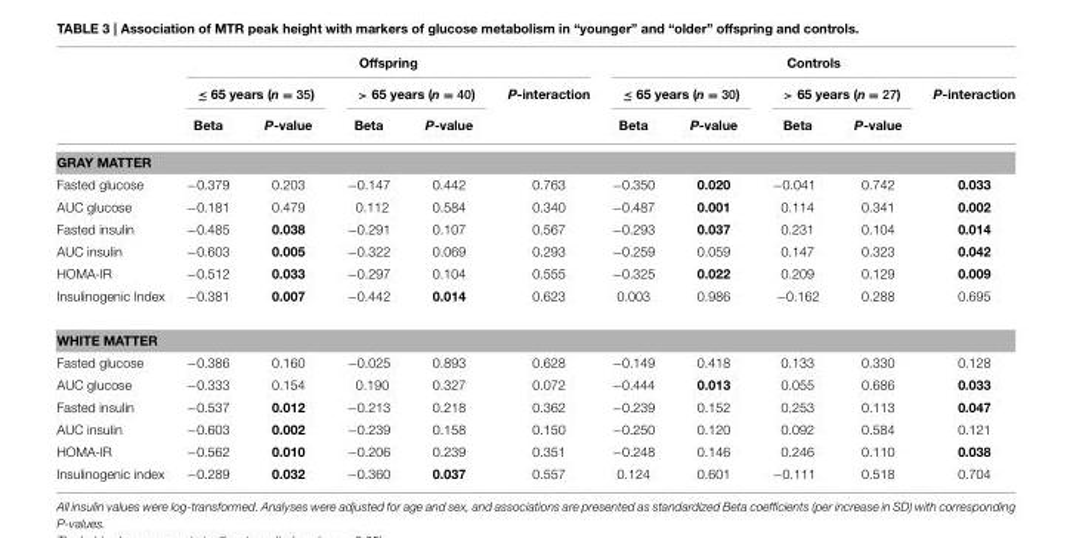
<table><thead><tr><td rowspan="3"></td><td colspan="5">Offspring</td><td colspan="5">Controls</td></tr><tr><td colspan="2">≤ 65 years (n = 35)</td><td colspan="2">&gt; 65 years (n = 40)</td><td rowspan="2">P-interaction</td><td colspan="2">≤ 65 years (n = 30)</td><td colspan="2">&gt; 65 years (n = 27)</td><td rowspan="2">P-interaction</td></tr><tr><td>Beta</td><td>P-value</td><td>Beta</td><td>P-value</td><td>Beta</td><td>P-value</td><td>Beta</td><td>P-value</td></tr></thead><tbody><tr><td colspan="11">GRAY MATTER</td></tr><tr><td>Fasted glucose</td><td>−0.379</td><td>0.203</td><td>−0.147</td><td>0.442</td><td>0.763</td><td>−0.350</td><td>0.020</td><td>−0.041</td><td>0.742</td><td>0.033</td></tr><tr><td>AUC glucose</td><td>−0.181</td><td>0.479</td><td>0.112</td><td>0.584</td><td>0.340</td><td>−0.487</td><td>0.001</td><td>0.114</td><td>0.341</td><td>0.002</td></tr><tr><td>Fasted insulin</td><td>−0.485</td><td>0.038</td><td>−0.291</td><td>0.107</td><td>0.567</td><td>−0.293</td><td>0.037</td><td>0.231</td><td>0.104</td><td>0.014</td></tr><tr><td>AUC insulin</td><td>−0.603</td><td>0.005</td><td>−0.322</td><td>0.069</td><td>0.293</td><td>−0.259</td><td>0.059</td><td>0.147</td><td>0.323</td><td>0.042</td></tr><tr><td>HOMA-IR</td><td>−0.512</td><td>0.033</td><td>−0.297</td><td>0.104</td><td>0.555</td><td>−0.325</td><td>0.022</td><td>0.209</td><td>0.129</td><td>0.009</td></tr><tr><td>Insulinogenic Index</td><td>−0.381</td><td>0.007</td><td>−0.442</td><td>0.014</td><td>0.623</td><td>0.003</td><td>0.986</td><td>−0.162</td><td>0.288</td><td>0.695</td></tr><tr><td colspan="11">WHITE MATTER</td></tr><tr><td>Fasted glucose</td><td>−0.386</td><td>0.160</td><td>−0.025</td><td>0.893</td><td>0.628</td><td>−0.149</td><td>0.418</td><td>0.133</td><td>0.330</td><td>0.128</td></tr><tr><td>AUC glucose</td><td>−0.333</td><td>0.154</td><td>0.190</td><td>0.327</td><td>0.072</td><td>−0.444</td><td>0.013</td><td>0.055</td><td>0.686</td><td>0.033</td></tr><tr><td>Fasted insulin</td><td>−0.537</td><td>0.012</td><td>−0.213</td><td>0.218</td><td>0.362</td><td>−0.239</td><td>0.152</td><td>0.253</td><td>0.113</td><td>0.047</td></tr><tr><td>AUC insulin</td><td>−0.603</td><td>0.002</td><td>−0.239</td><td>0.158</td><td>0.150</td><td>−0.250</td><td>0.120</td><td>0.092</td><td>0.584</td><td>0.121</td></tr><tr><td>HOMA-IR</td><td>−0.562</td><td>0.010</td><td>−0.206</td><td>0.239</td><td>0.351</td><td>−0.248</td><td>0.146</td><td>0.246</td><td>0.110</td><td>0.038</td></tr><tr><td>Insulinogenic index</td><td>−0.289</td><td>0.032</td><td>−0.360</td><td>0.037</td><td>0.557</td><td>0.124</td><td>0.601</td><td>−0.111</td><td>0.518</td><td>0.704</td></tr></tbody></table>